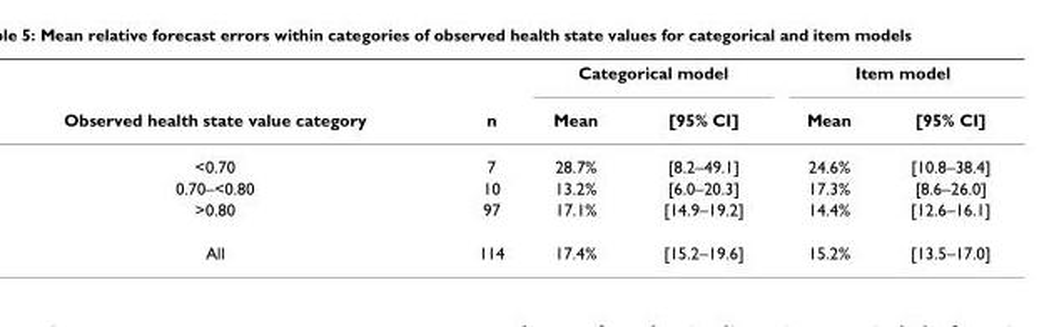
<table><thead><tr><td rowspan="2">Observed health state value category</td><td rowspan="2">n</td><td colspan="2">Categorical model</td><td colspan="2">Item model</td></tr><tr><td>Mean</td><td>[95% CI]</td><td>Mean</td><td>[95% CI]</td></tr></thead><tbody><tr><td>&lt;0.70</td><td>7</td><td>28.7%</td><td>[8.2–49.1]</td><td>24.6%</td><td>[10.8–38.4]</td></tr><tr><td>0.70–&lt;0.80</td><td>10</td><td>13.2%</td><td>[6.0–20.3]</td><td>17.3%</td><td>[8.6–26.0]</td></tr><tr><td>&gt;0.80</td><td>97</td><td>17.1%</td><td>[14.9–19.2]</td><td>14.4%</td><td>[12.6–16.1]</td></tr><tr><td>All</td><td>114</td><td>17.4%</td><td>[15.2–19.6]</td><td>15.2%</td><td>[13.5–17.0]</td></tr></tbody></table>